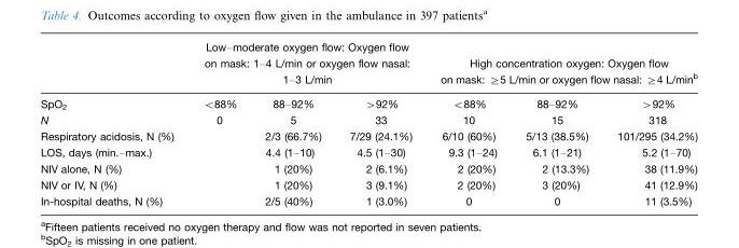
<table><thead><tr><td rowspan="2">SpO<sub>2</sub></td><td colspan="3">Low–moderate oxygen flow: Oxygen flow on mask: 1–4 L/min or oxygen flow nasal: 1–3 L/min</td><td colspan="3">High concentration oxygen: Oxygen flow on mask: ≥5 L/min or oxygen flow nasal: ≥4 L/min<sup>b</sup></td></tr><tr><td>&lt;88%</td><td>88–92%</td><td>&gt;92%</td><td>&lt;88%</td><td>88–92%</td><td>&gt;92%</td></tr></thead><tbody><tr><td>N</td><td>0</td><td>5</td><td>33</td><td>10</td><td>15</td><td>318</td></tr><tr><td>Respiratory acidosis, N (%)</td><td></td><td>2/3 (66.7%)</td><td>7/29 (24.1%)</td><td>6/10 (60%)</td><td>5/13 (38.5%)</td><td>101/295 (34.2%)</td></tr><tr><td>LOS, days (min.–max.)</td><td></td><td>4.4 (1–10)</td><td>4.5 (1–30)</td><td>9.3 (1–24)</td><td>6.1 (1–21)</td><td>5.2 (1–70)</td></tr><tr><td>NIV alone, N (%)</td><td></td><td>1 (20%)</td><td>2 (6.1%)</td><td>2 (20%)</td><td>2 (13.3%)</td><td>38 (11.9%)</td></tr><tr><td>NIV or IV, N (%)</td><td></td><td>1 (20%)</td><td>3 (9.1%)</td><td>2 (20%)</td><td>3 (20%)</td><td>41 (12.9%)</td></tr><tr><td>In-hospital deaths, N (%)</td><td></td><td>2/5 (40%)</td><td>1 (3.0%)</td><td>0</td><td>0</td><td>11 (3.5%)</td></tr></tbody></table>